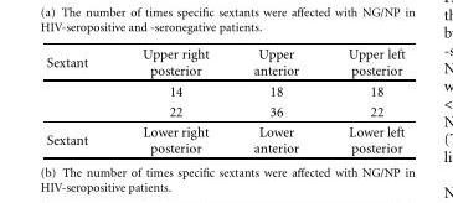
<table><thead><tr><td>Sextant</td><td>Upper right posterior</td><td>Upper anterior</td><td>Upper left posterior</td></tr></thead><tbody><tr><td></td><td>14</td><td>18</td><td>18</td></tr><tr><td></td><td>22</td><td>36</td><td>22</td></tr><tr><td>Sextant</td><td>Lower right posterior</td><td>Lower anterior</td><td>Lower left posterior</td></tr></tbody></table>